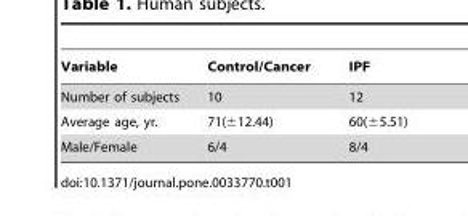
<table><thead><tr><td>Variable</td><td>Control/Cancer</td><td>IPF</td></tr></thead><tbody><tr><td>Number of subjects</td><td>10</td><td>12</td></tr><tr><td>Average age, yr.</td><td>71(±12.44)</td><td>60(±5.51)</td></tr><tr><td>Male/Female</td><td>6/4</td><td>8/4</td></tr></tbody></table>